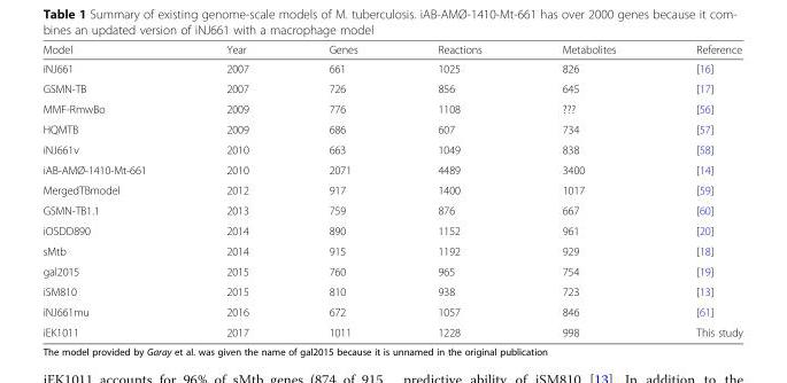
<table><thead><tr><td>Model</td><td>Year</td><td>Genes</td><td>Reactions</td><td>Metabolites</td><td>Reference</td></tr></thead><tbody><tr><td>iNJ661</td><td>2007</td><td>661</td><td>1025</td><td>826</td><td>[16]</td></tr><tr><td>GSMN-TB</td><td>2007</td><td>726</td><td>856</td><td>645</td><td>[17]</td></tr><tr><td>MMF-RmwBo</td><td>2009</td><td>776</td><td>1108</td><td>???</td><td>[56]</td></tr><tr><td>HQMTB</td><td>2009</td><td>686</td><td>607</td><td>734</td><td>[57]</td></tr><tr><td>iNJ661v</td><td>2010</td><td>663</td><td>1049</td><td>838</td><td>[58]</td></tr><tr><td>iAB-AMØ-1410-Mt-661</td><td>2010</td><td>2071</td><td>4489</td><td>3400</td><td>[14]</td></tr><tr><td>MergedTBmodel</td><td>2012</td><td>917</td><td>1400</td><td>1017</td><td>[59]</td></tr><tr><td>GSMN-TB1.1</td><td>2013</td><td>759</td><td>876</td><td>667</td><td>[60]</td></tr><tr><td>iOSDD890</td><td>2014</td><td>890</td><td>1152</td><td>961</td><td>[20]</td></tr><tr><td>sMtb</td><td>2014</td><td>915</td><td>1192</td><td>929</td><td>[18]</td></tr><tr><td>gal2015</td><td>2015</td><td>760</td><td>965</td><td>754</td><td>[19]</td></tr><tr><td>iSM810</td><td>2015</td><td>810</td><td>938</td><td>723</td><td>[13]</td></tr><tr><td>iNJ661mu</td><td>2016</td><td>672</td><td>1057</td><td>846</td><td>[61]</td></tr><tr><td>iEK1011</td><td>2017</td><td>1011</td><td>1228</td><td>998</td><td>This study</td></tr></tbody></table>